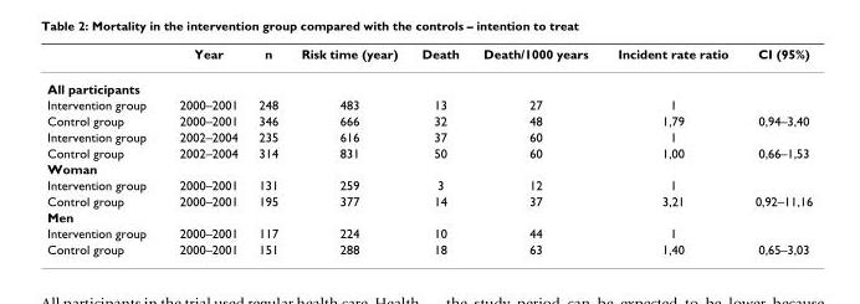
<table><thead><tr><td></td><td>Year</td><td>n</td><td>Risk time (year)</td><td>Death</td><td>Death/1000 years</td><td>Incident rate ratio</td><td>CI (95%)</td></tr></thead><tbody><tr><td colspan="8">All participants</td></tr><tr><td>Intervention group</td><td>2000–2001</td><td>248</td><td>483</td><td>13</td><td>27</td><td>1</td><td></td></tr><tr><td>Control group</td><td>2000–2001</td><td>346</td><td>666</td><td>32</td><td>48</td><td>1,79</td><td>0,94–3,40</td></tr><tr><td>Intervention group</td><td>2002–2004</td><td>235</td><td>616</td><td>37</td><td>60</td><td>1</td><td></td></tr><tr><td>Control group</td><td>2002–2004</td><td>314</td><td>831</td><td>50</td><td>60</td><td>1,00</td><td>0,66–1,53</td></tr><tr><td colspan="8">Woman</td></tr><tr><td>Intervention group</td><td>2000–2001</td><td>131</td><td>259</td><td>3</td><td>12</td><td>1</td><td></td></tr><tr><td>Control group</td><td>2000–2001</td><td>195</td><td>377</td><td>14</td><td>37</td><td>3,21</td><td>0,92–11,16</td></tr><tr><td colspan="8">Men</td></tr><tr><td>Intervention group</td><td>2000–2001</td><td>117</td><td>224</td><td>10</td><td>44</td><td>1</td><td></td></tr><tr><td>Control group</td><td>2000–2001</td><td>151</td><td>288</td><td>18</td><td>63</td><td>1,40</td><td>0,65–3,03</td></tr></tbody></table>